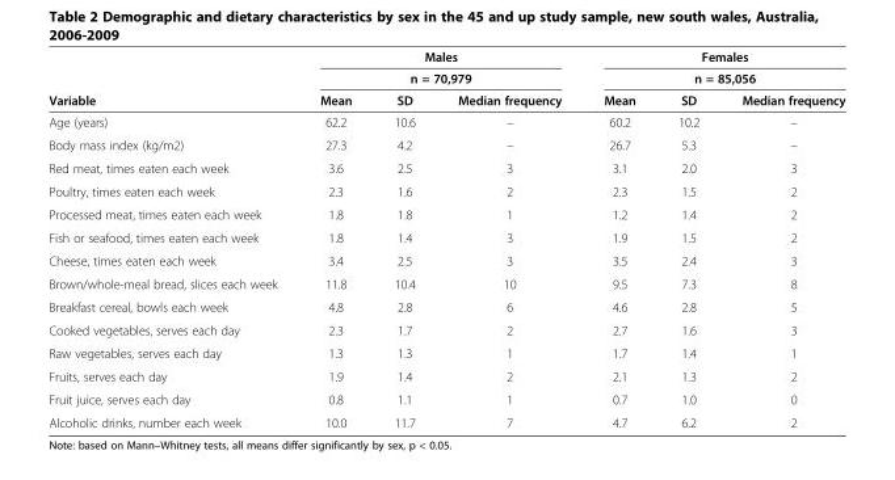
<table><thead><tr><td rowspan="3">Variable</td><td rowspan="2" colspan="3">Males n = 70,979</td><td rowspan="2" colspan="3">Females n = 85,056</td></tr><tr></tr><tr><td>Mean</td><td>SD</td><td>Median frequency</td><td>Mean</td><td>SD</td><td>Median frequency</td></tr></thead><tbody><tr><td>Age (years)</td><td>62.2</td><td>10.6</td><td>–</td><td>60.2</td><td>10.2</td><td>–</td></tr><tr><td>Body mass index (kg/m2)</td><td>27.3</td><td>4.2</td><td>–</td><td>26.7</td><td>5.3</td><td>–</td></tr><tr><td>Red meat, times eaten each week</td><td>3.6</td><td>2.5</td><td>3</td><td>3.1</td><td>2.0</td><td>3</td></tr><tr><td>Poultry, times eaten each week</td><td>2.3</td><td>1.6</td><td>2</td><td>2.3</td><td>1.5</td><td>2</td></tr><tr><td>Processed meat, times eaten each week</td><td>1.8</td><td>1.8</td><td>1</td><td>1.2</td><td>1.4</td><td>2</td></tr><tr><td>Fish or seafood, times eaten each week</td><td>1.8</td><td>1.4</td><td>3</td><td>1.9</td><td>1.5</td><td>2</td></tr><tr><td>Cheese, times eaten each week</td><td>3.4</td><td>2.5</td><td>3</td><td>3.5</td><td>2.4</td><td>3</td></tr><tr><td>Brown/whole-meal bread, slices each week</td><td>11.8</td><td>10.4</td><td>10</td><td>9.5</td><td>7.3</td><td>8</td></tr><tr><td>Breakfast cereal, bowls each week</td><td>4.8</td><td>2.8</td><td>6</td><td>4.6</td><td>2.8</td><td>5</td></tr><tr><td>Cooked vegetables, serves each day</td><td>2.3</td><td>1.7</td><td>2</td><td>2.7</td><td>1.6</td><td>3</td></tr><tr><td>Raw vegetables, serves each day</td><td>1.3</td><td>1.3</td><td>1</td><td>1.7</td><td>1.4</td><td>1</td></tr><tr><td>Fruits, serves each day</td><td>1.9</td><td>1.4</td><td>2</td><td>2.1</td><td>1.3</td><td>2</td></tr><tr><td>Fruit juice, serves each day</td><td>0.8</td><td>1.1</td><td>1</td><td>0.7</td><td>1.0</td><td>0</td></tr><tr><td>Alcoholic drinks, number each week</td><td>10.0</td><td>11.7</td><td>7</td><td>4.7</td><td>6.2</td><td>2</td></tr></tbody></table>